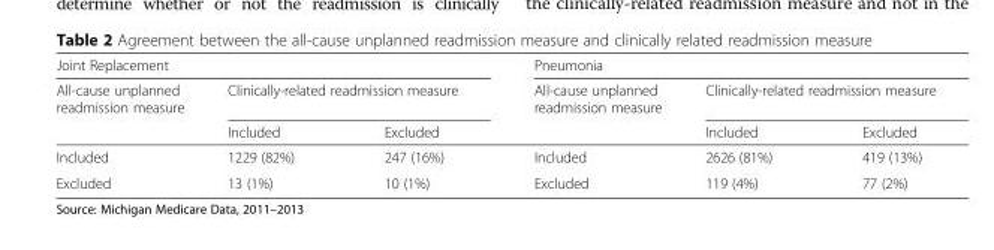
<table><thead><tr><td colspan="3">Joint Replacement</td><td colspan="3">Pneumonia</td></tr><tr><td rowspan="2">All-cause unplanned readmission measure</td><td colspan="2">Clinically-related readmission measure</td><td rowspan="2">All-cause unplanned readmission measure</td><td colspan="2">Clinically-related readmission measure</td></tr><tr><td>Included</td><td>Excluded</td><td>Included</td><td>Excluded</td></tr></thead><tbody><tr><td>Included</td><td>1229 (82%)</td><td>247 (16%)</td><td>Included</td><td>2626 (81%)</td><td>419 (13%)</td></tr><tr><td>Excluded</td><td>13 (1%)</td><td>10 (1%)</td><td>Excluded</td><td>119 (4%)</td><td>77 (2%)</td></tr></tbody></table>